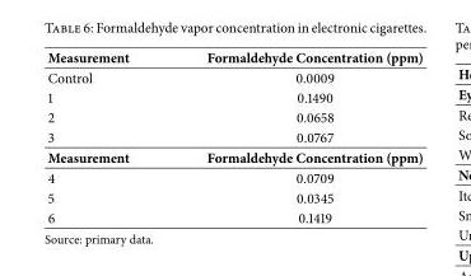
<table><tbody><tr><td>Measurement</td><td>Formaldehyde Concentration (ppm)</td></tr><tr><td>Control</td><td>0.0009</td></tr><tr><td>1</td><td>0.1490</td></tr><tr><td>2</td><td>0.0658</td></tr><tr><td>3</td><td>0.0767</td></tr><tr><td>Measurement</td><td>Formaldehyde Concentration (ppm)</td></tr><tr><td>4</td><td>0.0709</td></tr><tr><td>5</td><td>0.0345</td></tr><tr><td>6</td><td>0.1419</td></tr></tbody></table>